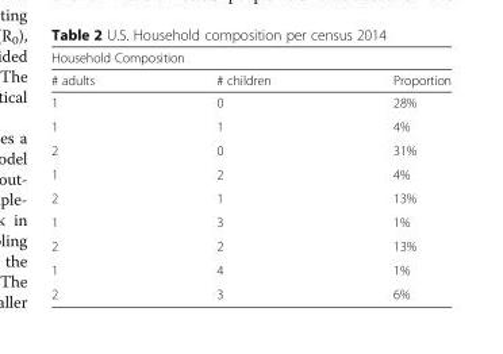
<table><thead><tr><td colspan="3">Household Composition</td></tr><tr><td># adults</td><td># children</td><td>Proportion</td></tr></thead><tbody><tr><td>1</td><td>0</td><td>28%</td></tr><tr><td>1</td><td>1</td><td>4%</td></tr><tr><td>2</td><td>0</td><td>31%</td></tr><tr><td>1</td><td>2</td><td>4%</td></tr><tr><td>2</td><td>1</td><td>13%</td></tr><tr><td>1</td><td>3</td><td>1%</td></tr><tr><td>2</td><td>2</td><td>13%</td></tr><tr><td>1</td><td>4</td><td>1%</td></tr><tr><td>2</td><td>3</td><td>6%</td></tr></tbody></table>